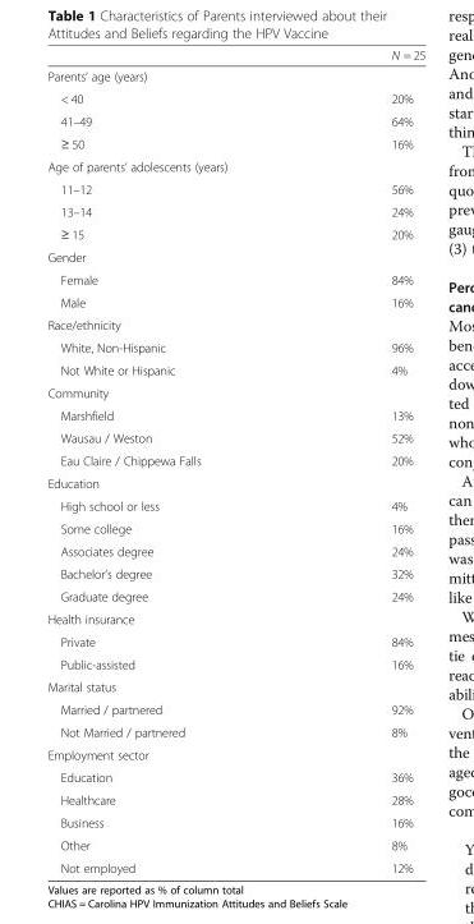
<table><thead><tr><td></td><td>N = 25</td></tr></thead><tbody><tr><td colspan="2">Parents’ age (years)</td></tr><tr><td>&lt; 40</td><td>20%</td></tr><tr><td>41–49</td><td>64%</td></tr><tr><td>≥ 50</td><td>16%</td></tr><tr><td colspan="2">Age of parents’ adolescents (years)</td></tr><tr><td>11–12</td><td>56%</td></tr><tr><td>13–14</td><td>24%</td></tr><tr><td>≥ 15</td><td>20%</td></tr><tr><td colspan="2">Gender</td></tr><tr><td>Female</td><td>84%</td></tr><tr><td>Male</td><td>16%</td></tr><tr><td colspan="2">Race/ethnicity</td></tr><tr><td>White, Non-Hispanic</td><td>96%</td></tr><tr><td>Not White or Hispanic</td><td>4%</td></tr><tr><td colspan="2">Community</td></tr><tr><td>Marshfield</td><td>13%</td></tr><tr><td>Wausau / Weston</td><td>52%</td></tr><tr><td>Eau Claire / Chippewa Falls</td><td>20%</td></tr><tr><td colspan="2">Education</td></tr><tr><td>High school or less</td><td>4%</td></tr><tr><td>Some college</td><td>16%</td></tr><tr><td>Associates degree</td><td>24%</td></tr><tr><td>Bachelor’s degree</td><td>32%</td></tr><tr><td>Graduate degree</td><td>24%</td></tr><tr><td colspan="2">Health insurance</td></tr><tr><td>Private</td><td>84%</td></tr><tr><td>Public-assisted</td><td>16%</td></tr><tr><td colspan="2">Marital status</td></tr><tr><td>Married / partnered</td><td>92%</td></tr><tr><td>Not Married / partnered</td><td>8%</td></tr><tr><td colspan="2">Employment sector</td></tr><tr><td>Education</td><td>36%</td></tr><tr><td>Healthcare</td><td>28%</td></tr><tr><td>Business</td><td>16%</td></tr><tr><td>Other</td><td>8%</td></tr><tr><td>Not employed</td><td>12%</td></tr></tbody></table>